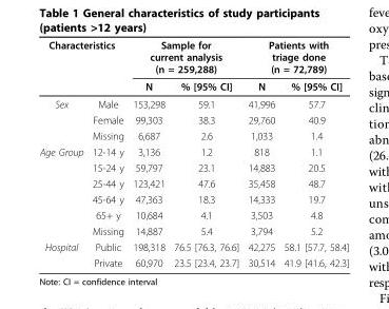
<table><thead><tr><td colspan="2">Characteristics</td><td colspan="2">Sample for current analysis (n = 259,288)</td><td colspan="2">Patients with triage done (n = 72,789)</td></tr><tr><td></td><td></td><td>N</td><td>% [95% CI]</td><td>N</td><td>% [95% CI]</td></tr></thead><tbody><tr><td rowspan="3">Sex</td><td>Male</td><td>153,298</td><td>59.1</td><td>41,996</td><td>57.7</td></tr><tr><td>Female</td><td>99,303</td><td>38.3</td><td>29,760</td><td>40.9</td></tr><tr><td>Missing</td><td>6,687</td><td>2.6</td><td>1,033</td><td>1.4</td></tr><tr><td rowspan="6">Age Group</td><td>12-14 y</td><td>3,136</td><td>1.2</td><td>818</td><td>1.1</td></tr><tr><td>15-24 y</td><td>59,797</td><td>23.1</td><td>14,883</td><td>20.5</td></tr><tr><td>25-44 y</td><td>123,421</td><td>47.6</td><td>35,458</td><td>48.7</td></tr><tr><td>45-64 y</td><td>47,363</td><td>18.3</td><td>14,333</td><td>19.7</td></tr><tr><td>65+ y</td><td>10,684</td><td>4.1</td><td>3,503</td><td>4.8</td></tr><tr><td>Missing</td><td>14,887</td><td>5.4</td><td>3,794</td><td>5.2</td></tr><tr><td rowspan="2">Hospital</td><td>Public</td><td>198,318</td><td>76.5 [76.3, 76.6]</td><td>42,275</td><td>58.1 [57.7, 58.4]</td></tr><tr><td>Private</td><td>60,970</td><td>23.5 [23.4, 23.7]</td><td>30,514</td><td>41.9 [41.6, 42.3]</td></tr></tbody></table>